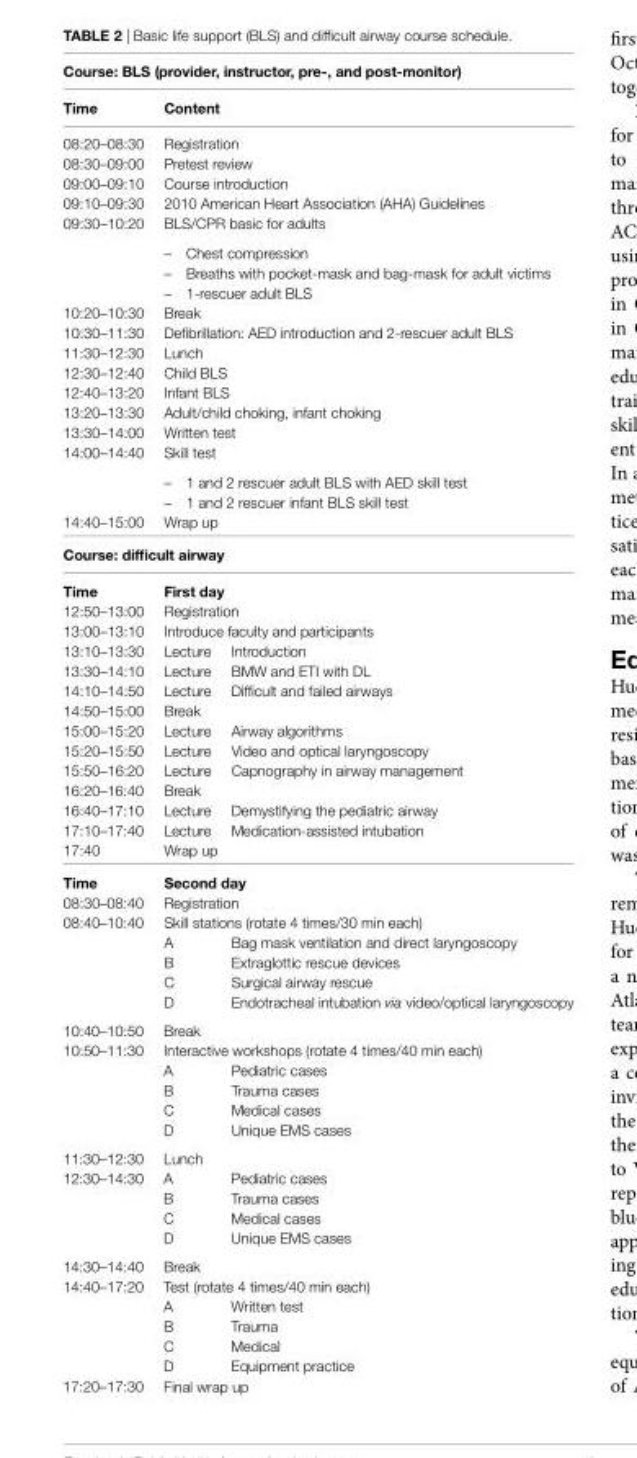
<table><thead><tr><td colspan="3">Course: BlS (provider, instructor, pre-, and post-monitor)</td></tr><tr><td>time</td><td colspan="2">Content</td></tr></thead><tbody><tr><td>08:20–08:30</td><td colspan="2">Registration</td></tr><tr><td>08:30–09:00</td><td colspan="2">Pretest review</td></tr><tr><td>09:00–09:10</td><td colspan="2">Course introduction</td></tr><tr><td>09:10–09:30</td><td colspan="2">2010 American Heart Association (AHA) Guidelines</td></tr><tr><td>09:30–10:20</td><td colspan="2">BLS/CPR basic for adults – Chest compression – Breaths with pocket-mask and bag-mask for adult victims – 1-rescuer adult BLS</td></tr><tr><td>10:20–10:30</td><td colspan="2">Break</td></tr><tr><td>10:30–11:30</td><td colspan="2">Defibrillation: AED introduction and 2-rescuer adult BLS</td></tr><tr><td>11:30–12:30</td><td colspan="2">Lunch</td></tr><tr><td>12:30–12:40</td><td colspan="2">Child BLS</td></tr><tr><td>12:40–13:20</td><td colspan="2">Infant BLS</td></tr><tr><td>13:20–13:30</td><td colspan="2">Adult/child choking, infant choking</td></tr><tr><td>13:30–14:00</td><td colspan="2">Written test</td></tr><tr><td>14:00–14:40</td><td colspan="2">Skill test – 1 and 2 rescuer adult BLS with AED skill test – 1 and 2 rescuer infant BLS skill test</td></tr><tr><td>14:40–15:00</td><td colspan="2">Wrap up</td></tr><tr><td colspan="3">Course: difficult airway</td></tr><tr><td>time</td><td colspan="2">First day</td></tr><tr><td>12:50–13:00</td><td colspan="2">Registration</td></tr><tr><td>13:00–13:10</td><td colspan="2">Introduce faculty and participants</td></tr><tr><td>13:10–13:30</td><td>Lecture</td><td>Introduction</td></tr><tr><td>13:30–14:10</td><td>Lecture</td><td>BMW and ETI with DL</td></tr><tr><td>14:10–14:50</td><td>Lecture</td><td>Difficult and failed airways</td></tr><tr><td>14:50–15:00</td><td colspan="2">Break</td></tr><tr><td>15:00–15:20</td><td>Lecture</td><td>Airway algorithms</td></tr><tr><td>15:20–15:50</td><td>Lecture</td><td>Video and optical laryngoscopy</td></tr><tr><td>15:50–16:20</td><td>Lecture</td><td>Capnography in airway management</td></tr><tr><td>16:20–16:40</td><td colspan="2">Break</td></tr><tr><td>16:40–17:10</td><td>Lecture</td><td>Demystifying the pediatric airway</td></tr><tr><td>17:10–17:40</td><td>Lecture</td><td>Medication-assisted intubation</td></tr><tr><td>17:40</td><td colspan="2">Wrap up</td></tr><tr><td>time</td><td colspan="2">Second day</td></tr><tr><td>08:30–08:40</td><td colspan="2">Registration</td></tr><tr><td rowspan="5">08:40–10:40</td><td colspan="2">Skill stations (rotate 4 times/30 min each)</td></tr><tr><td>A</td><td>Bag mask ventilation and direct laryngoscopy</td></tr><tr><td>B</td><td>Extraglottic rescue devices</td></tr><tr><td>C</td><td>Surgical airway rescue</td></tr><tr><td>D</td><td>Endotracheal intubation via video/optical laryngoscopy</td></tr><tr><td>10:40–10:50</td><td colspan="2">Break</td></tr><tr><td rowspan="5">10:50–11:30</td><td colspan="2">Interactive workshops (rotate 4 times/40 min each)</td></tr><tr><td>A</td><td>Pediatric cases</td></tr><tr><td>B</td><td>Trauma cases</td></tr><tr><td>C</td><td>Medical cases</td></tr><tr><td>D</td><td>Unique EMS cases</td></tr><tr><td>11:30–12:30</td><td colspan="2">Lunch</td></tr><tr><td rowspan="4">12:30–14:30</td><td>A</td><td>Pediatric cases</td></tr><tr><td>B</td><td>Trauma cases</td></tr><tr><td>C</td><td>Medical cases</td></tr><tr><td>D</td><td>Unique EMS cases</td></tr><tr><td>14:30–14:40</td><td colspan="2">Break</td></tr><tr><td rowspan="5">14:40–17:20</td><td colspan="2">Test (rotate 4 times/40 min each)</td></tr><tr><td>A</td><td>Written test</td></tr><tr><td>B</td><td>Trauma</td></tr><tr><td>C</td><td>Medical</td></tr><tr><td>D</td><td>Equipment practice</td></tr><tr><td>17:20–17:30</td><td colspan="2">Final wrap up</td></tr></tbody></table>